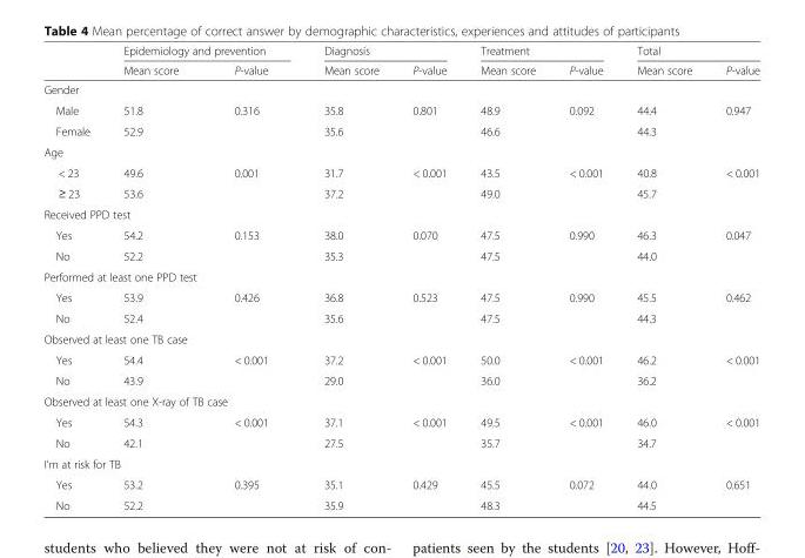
<table><thead><tr><td rowspan="2"></td><td colspan="2">Epidemiology and prevention</td><td colspan="2">Diagnosis</td><td colspan="2">Treatment</td><td colspan="2">Total</td></tr><tr><td>Mean score</td><td>P-value</td><td>Mean score</td><td>P-value</td><td>Mean score</td><td>P-value</td><td>Mean score</td><td>P-value</td></tr></thead><tbody><tr><td colspan="9">Gender</td></tr><tr><td>Male</td><td>51.8</td><td>0.316</td><td>35.8</td><td>0.801</td><td>48.9</td><td>0.092</td><td>44.4</td><td>0.947</td></tr><tr><td>Female</td><td>52.9</td><td></td><td>35.6</td><td></td><td>46.6</td><td></td><td>44.3</td><td></td></tr><tr><td colspan="9">Age</td></tr><tr><td>&lt; 23</td><td>49.6</td><td>0.001</td><td>31.7</td><td>&lt; 0.001</td><td>43.5</td><td>&lt; 0.001</td><td>40.8</td><td>&lt; 0.001</td></tr><tr><td>≥ 23</td><td>53.6</td><td></td><td>37.2</td><td></td><td>49.0</td><td></td><td>45.7</td><td></td></tr><tr><td colspan="9">Received PPD test</td></tr><tr><td>Yes</td><td>54.2</td><td>0.153</td><td>38.0</td><td>0.070</td><td>47.5</td><td>0.990</td><td>46.3</td><td>0.047</td></tr><tr><td>No</td><td>52.2</td><td></td><td>35.3</td><td></td><td>47.5</td><td></td><td>44.0</td><td></td></tr><tr><td colspan="9">Performed at least one PPD test</td></tr><tr><td>Yes</td><td>53.9</td><td>0.426</td><td>36.8</td><td>0.523</td><td>47.5</td><td>0.990</td><td>45.5</td><td>0.462</td></tr><tr><td>No</td><td>52.4</td><td></td><td>35.6</td><td></td><td>47.5</td><td></td><td>44.3</td><td></td></tr><tr><td colspan="9">Observed at least one TB case</td></tr><tr><td>Yes</td><td>54.4</td><td>&lt; 0.001</td><td>37.2</td><td>&lt; 0.001</td><td>50.0</td><td>&lt; 0.001</td><td>46.2</td><td>&lt; 0.001</td></tr><tr><td>No</td><td>43.9</td><td></td><td>29.0</td><td></td><td>36.0</td><td></td><td>36.2</td><td></td></tr><tr><td colspan="9">Observed at least one X-ray of TB case</td></tr><tr><td>Yes</td><td>54.3</td><td>&lt; 0.001</td><td>37.1</td><td>&lt; 0.001</td><td>49.5</td><td>&lt; 0.001</td><td>46.0</td><td>&lt; 0.001</td></tr><tr><td>No</td><td>42.1</td><td></td><td>27.5</td><td></td><td>35.7</td><td></td><td>34.7</td><td></td></tr><tr><td colspan="9">I’m at risk for TB</td></tr><tr><td>Yes</td><td>53.2</td><td>0.395</td><td>35.1</td><td>0.429</td><td>45.5</td><td>0.072</td><td>44.0</td><td>0.651</td></tr><tr><td>No</td><td>52.2</td><td></td><td>35.9</td><td></td><td>48.3</td><td></td><td>44.5</td><td></td></tr></tbody></table>